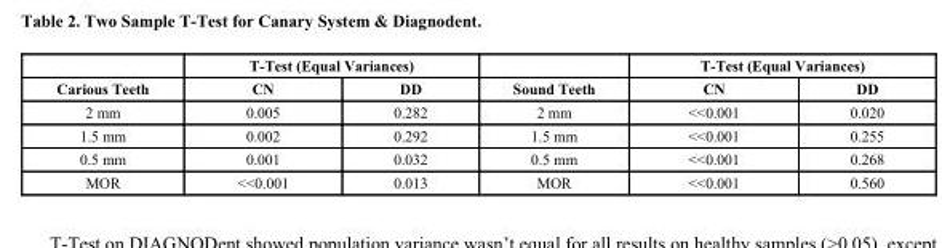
<table><thead><tr><td rowspan="2">Carious Teeth</td><td colspan="2">T-Test (Equal Variances)</td><td rowspan="2">Sound Teeth</td><td colspan="2">T-Test (Equal Variances)</td></tr><tr><td>CN</td><td>DD</td><td>CN</td><td>DD</td></tr></thead><tbody><tr><td>2 mm</td><td>0.005</td><td>0.282</td><td>2 mm</td><td>&lt;&lt;0.001</td><td>0.020</td></tr><tr><td>1.5 mm</td><td>0.002</td><td>0.292</td><td>1.5 mm</td><td>&lt;&lt;0.001</td><td>0.255</td></tr><tr><td>0.5 mm</td><td>0.001</td><td>0.032</td><td>0.5 mm</td><td>&lt;&lt;0.001</td><td>0.268</td></tr><tr><td>MOR</td><td>&lt;&lt;0.001</td><td>0.013</td><td>MOR</td><td>&lt;&lt;0.001</td><td>0.560</td></tr></tbody></table>